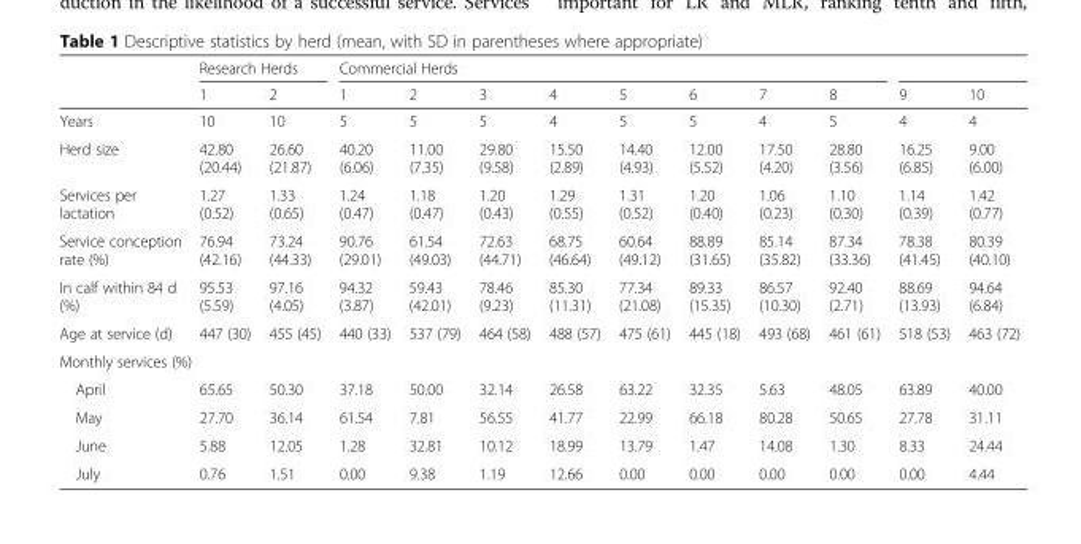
<table><thead><tr><td rowspan="2"></td><td colspan="2">Research Herds</td><td colspan="8">Commercial Herds</td><td rowspan="2">9</td><td rowspan="2">10</td></tr><tr><td>1</td><td>2</td><td>1</td><td>2</td><td>3</td><td>4</td><td>5</td><td>6</td><td>7</td><td>8</td></tr></thead><tbody><tr><td>Years</td><td>10</td><td>10</td><td>5</td><td>5</td><td>5</td><td>4</td><td>5</td><td>5</td><td>4</td><td>5</td><td>4</td><td>4</td></tr><tr><td>Herd size</td><td>42.80 (20.44)</td><td>26.60 (21.87)</td><td>40.20 (6.06)</td><td>11.00 (7.35)</td><td>29.80 (9.58)</td><td>15.50 (2.89)</td><td>14.40 (4.93)</td><td>12.00 (5.52)</td><td>17.50 (4.20)</td><td>28.80 (3.56)</td><td>16.25 (6.85)</td><td>9.00 (6.00)</td></tr><tr><td>Services per lactation</td><td>1.27 (0.52)</td><td>1.33 (0.65)</td><td>1.24 (0.47)</td><td>1.18 (0.47)</td><td>1.20 (0.43)</td><td>1.29 (0.55)</td><td>1.31 (0.52)</td><td>1.20 (0.40)</td><td>1.06 (0.23)</td><td>1.10 (0.30)</td><td>1.14 (0.39)</td><td>1.42 (0.77)</td></tr><tr><td>Service conception rate (%)</td><td>76.94 (42.16)</td><td>73.24 (44.33)</td><td>90.76 (29.01)</td><td>61.54 (49.03)</td><td>72.63 (44.71)</td><td>68.75 (46.64)</td><td>60.64 (49.12)</td><td>88.89 (31.65)</td><td>85.14 (35.82)</td><td>87.34 (33.36)</td><td>78.38 (41.45)</td><td>80.39 (40.10)</td></tr><tr><td>In calf within 84 d (%)</td><td>95.53 (5.59)</td><td>97.16 (4.05)</td><td>94.32 (3.87)</td><td>59.43 (42.01)</td><td>78.46 (9.23)</td><td>85.30 (11.31)</td><td>77.34 (21.08)</td><td>89.33 (15.35)</td><td>86.57 (10.30)</td><td>92.40 (2.71)</td><td>88.69 (13.93)</td><td>94.64 (6.84)</td></tr><tr><td>Age at service (d)</td><td>447 (30)</td><td>455 (45)</td><td>440 (33)</td><td>537 (79)</td><td>464 (58)</td><td>488 (57)</td><td>475 (61)</td><td>445 (18)</td><td>493 (68)</td><td>461 (61)</td><td>518 (53)</td><td>463 (72)</td></tr><tr><td colspan="13">Monthly services (%)</td></tr><tr><td>April</td><td>65.65</td><td>50.30</td><td>37.18</td><td>50.00</td><td>32.14</td><td>26.58</td><td>63.22</td><td>32.35</td><td>5.63</td><td>48.05</td><td>63.89</td><td>40.00</td></tr><tr><td>May</td><td>27.70</td><td>36.14</td><td>61.54</td><td>7.81</td><td>56.55</td><td>41.77</td><td>22.99</td><td>66.18</td><td>80.28</td><td>50.65</td><td>27.78</td><td>31.11</td></tr><tr><td>June</td><td>5.88</td><td>12.05</td><td>1.28</td><td>32.81</td><td>10.12</td><td>18.99</td><td>13.79</td><td>1.47</td><td>14.08</td><td>1.30</td><td>8.33</td><td>24.44</td></tr><tr><td>July</td><td>0.76</td><td>1.51</td><td>0.00</td><td>9.38</td><td>1.19</td><td>12.66</td><td>0.00</td><td>0.00</td><td>0.00</td><td>0.00</td><td>0.00</td><td>4.44</td></tr></tbody></table>